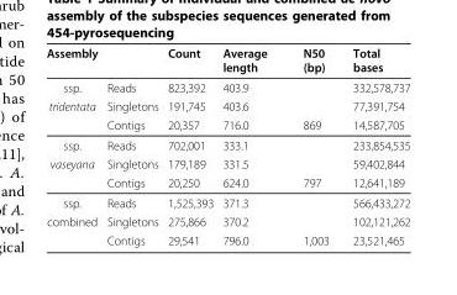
<table><thead><tr><td>Assembly</td><td></td><td>Count</td><td>Average length</td><td>N50 (bp)</td><td>Total bases</td></tr></thead><tbody><tr><td>ssp.</td><td>Reads</td><td>823,392</td><td>403.9</td><td></td><td>332,578,737</td></tr><tr><td rowspan="2">tridentata</td><td>Singletons</td><td>191,745</td><td>403.6</td><td></td><td>77,391,754</td></tr><tr><td>Contigs</td><td>20,357</td><td>716.0</td><td>869</td><td>14,587,705</td></tr><tr><td>ssp.</td><td>Reads</td><td>702,001</td><td>333.1</td><td></td><td>233,854,535</td></tr><tr><td rowspan="2">vaseyana</td><td>Singletons</td><td>179,189</td><td>331.5</td><td></td><td>59,402,844</td></tr><tr><td>Contigs</td><td>20,250</td><td>624.0</td><td>797</td><td>12,641,189</td></tr><tr><td>ssp.</td><td>Reads</td><td>1,525,393</td><td>371.3</td><td></td><td>566,433,272</td></tr><tr><td rowspan="2">combined</td><td>Singletons</td><td>275,866</td><td>370.2</td><td></td><td>102,121,262</td></tr><tr><td>Contigs</td><td>29,541</td><td>796.0</td><td>1,003</td><td>23,521,465</td></tr></tbody></table>